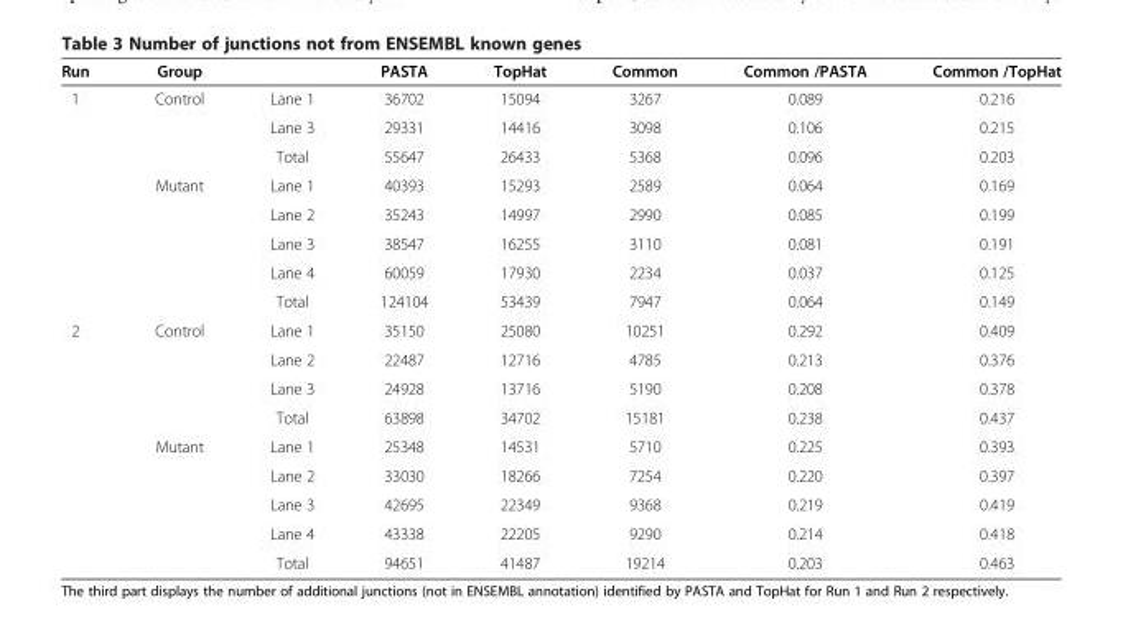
<table><thead><tr><td>Run</td><td>Group</td><td></td><td>PASTA</td><td>TopHat</td><td>Common</td><td>Common /PASTA</td><td>Common /TopHat</td></tr></thead><tbody><tr><td rowspan="8">1</td><td>Control</td><td>Lane 1</td><td>36702</td><td>15094</td><td>3267</td><td>0.089</td><td>0.216</td></tr><tr><td></td><td>Lane 3</td><td>29331</td><td>14416</td><td>3098</td><td>0.106</td><td>0.215</td></tr><tr><td></td><td>Total</td><td>55647</td><td>26433</td><td>5368</td><td>0.096</td><td>0.203</td></tr><tr><td>Mutant</td><td>Lane 1</td><td>40393</td><td>15293</td><td>2589</td><td>0.064</td><td>0.169</td></tr><tr><td></td><td>Lane 2</td><td>35243</td><td>14997</td><td>2990</td><td>0.085</td><td>0.199</td></tr><tr><td></td><td>Lane 3</td><td>38547</td><td>16255</td><td>3110</td><td>0.081</td><td>0.191</td></tr><tr><td></td><td>Lane 4</td><td>60059</td><td>17930</td><td>2234</td><td>0.037</td><td>0.125</td></tr><tr><td></td><td>Total</td><td>124104</td><td>53439</td><td>7947</td><td>0.064</td><td>0.149</td></tr><tr><td rowspan="9">2</td><td>Control</td><td>Lane 1</td><td>35150</td><td>25080</td><td>10251</td><td>0.292</td><td>0.409</td></tr><tr><td></td><td>Lane 2</td><td>22487</td><td>12716</td><td>4785</td><td>0.213</td><td>0.376</td></tr><tr><td></td><td>Lane 3</td><td>24928</td><td>13716</td><td>5190</td><td>0.208</td><td>0.378</td></tr><tr><td></td><td>Total</td><td>63898</td><td>34702</td><td>15181</td><td>0.238</td><td>0.437</td></tr><tr><td>Mutant</td><td>Lane 1</td><td>25348</td><td>14531</td><td>5710</td><td>0.225</td><td>0.393</td></tr><tr><td></td><td>Lane 2</td><td>33030</td><td>18266</td><td>7254</td><td>0.220</td><td>0.397</td></tr><tr><td></td><td>Lane 3</td><td>42695</td><td>22349</td><td>9368</td><td>0.219</td><td>0.419</td></tr><tr><td></td><td>Lane 4</td><td>43338</td><td>22205</td><td>9290</td><td>0.214</td><td>0.418</td></tr><tr><td></td><td>Total</td><td>94651</td><td>41487</td><td>19214</td><td>0.203</td><td>0.463</td></tr></tbody></table>